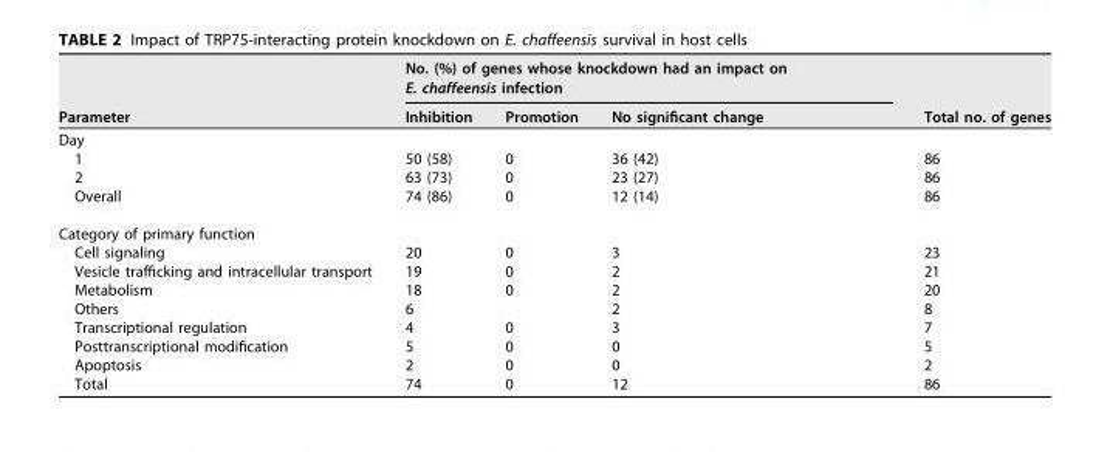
<table><thead><tr><td rowspan="2">Parameter</td><td colspan="3">No. (%) of genes whose knockdown had an impact on E. chaffeensis infection</td><td rowspan="2">Total no. of genes</td></tr><tr><td>Inhibition</td><td>Promotion</td><td>No significant change</td></tr></thead><tbody><tr><td colspan="5">Day</td></tr><tr><td>1</td><td>50 (58)</td><td>0</td><td>36 (42)</td><td>86</td></tr><tr><td>2</td><td>63 (73)</td><td>0</td><td>23 (27)</td><td>86</td></tr><tr><td>Overall</td><td>74 (86)</td><td>0</td><td>12 (14)</td><td>86</td></tr><tr><td colspan="5">Category of primary function</td></tr><tr><td>Cell signaling</td><td>20</td><td>0</td><td>3</td><td>23</td></tr><tr><td>Vesicle trafficking and intracellular transport</td><td>19</td><td>0</td><td>2</td><td>21</td></tr><tr><td>Metabolism</td><td>18</td><td>0</td><td>2</td><td>20</td></tr><tr><td>Others</td><td>6</td><td></td><td>2</td><td>8</td></tr><tr><td>Transcriptional regulation</td><td>4</td><td>0</td><td>3</td><td>7</td></tr><tr><td>Posttranscriptional modification</td><td>5</td><td>0</td><td>0</td><td>5</td></tr><tr><td>Apoptosis</td><td>2</td><td>0</td><td>0</td><td>2</td></tr><tr><td>Total</td><td>74</td><td>0</td><td>12</td><td>86</td></tr></tbody></table>